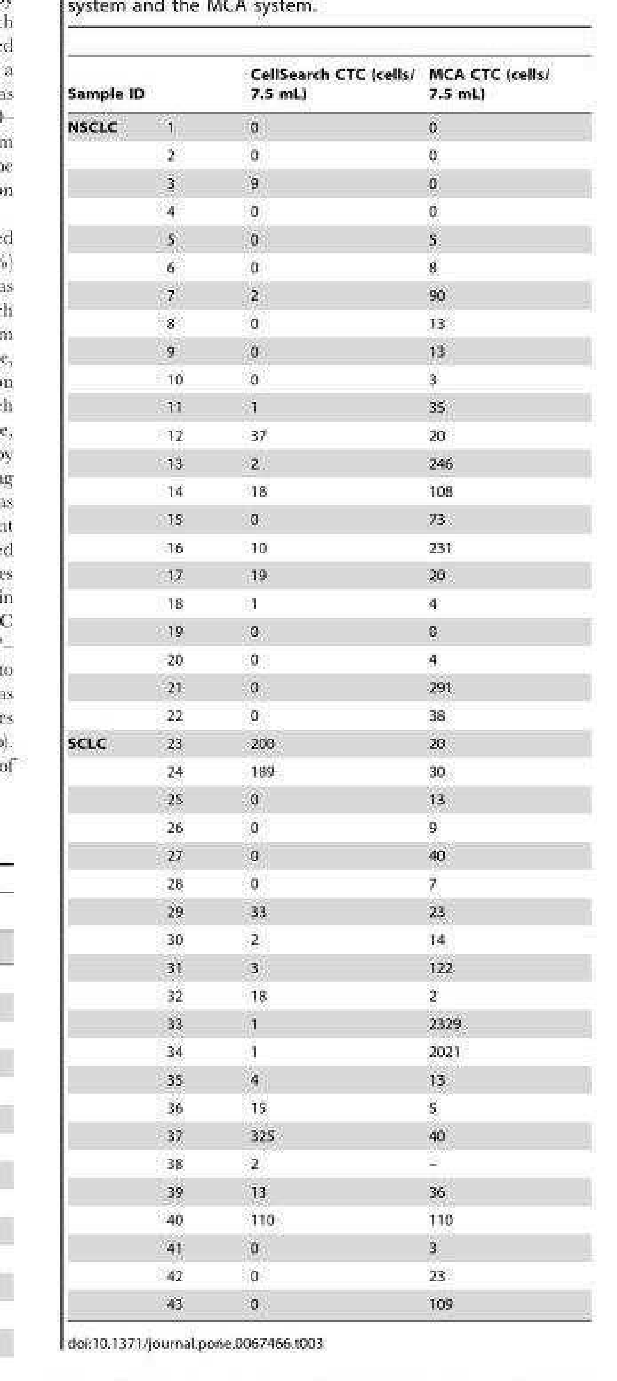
<table><thead><tr><td colspan="2">Sample ID</td><td rowspan="2">CellSearch CTC (cells/ 7.5 mL) 0</td><td rowspan="2">MCA CTC (cells/ 7.5 mL) 0</td></tr><tr><td>NSCLC</td><td>1</td></tr></thead><tbody><tr><td></td><td>2</td><td>0</td><td>0</td></tr><tr><td></td><td>3</td><td>9</td><td>0</td></tr><tr><td></td><td>4</td><td>0</td><td>0</td></tr><tr><td></td><td>5</td><td>0</td><td>5</td></tr><tr><td></td><td>6</td><td>0</td><td>8</td></tr><tr><td></td><td>7</td><td>2</td><td>90</td></tr><tr><td></td><td>8</td><td>0</td><td>13</td></tr><tr><td></td><td>9</td><td>0</td><td>13</td></tr><tr><td></td><td>10</td><td>0</td><td>3</td></tr><tr><td></td><td>11</td><td>1</td><td>35</td></tr><tr><td></td><td>12</td><td>37</td><td>20</td></tr><tr><td></td><td>13</td><td>2</td><td>246</td></tr><tr><td></td><td>14</td><td>18</td><td>108</td></tr><tr><td></td><td>15</td><td>0</td><td>73</td></tr><tr><td></td><td>16</td><td>10</td><td>231</td></tr><tr><td></td><td>17</td><td>19</td><td>20</td></tr><tr><td></td><td>18</td><td>1</td><td>4</td></tr><tr><td></td><td>19</td><td>0</td><td>0</td></tr><tr><td></td><td>20</td><td>0</td><td>4</td></tr><tr><td></td><td>21</td><td>0</td><td>291</td></tr><tr><td></td><td>22</td><td>0</td><td>38</td></tr><tr><td rowspan="21">SCLC</td><td>23</td><td>200</td><td>20</td></tr><tr><td>24</td><td>189</td><td>30</td></tr><tr><td>25</td><td>0</td><td>13</td></tr><tr><td>26</td><td>0</td><td>9</td></tr><tr><td>27</td><td>0</td><td>40</td></tr><tr><td>28</td><td>0</td><td>7</td></tr><tr><td>29</td><td>33</td><td>23</td></tr><tr><td>30</td><td>2</td><td>14</td></tr><tr><td>31</td><td>3</td><td>122</td></tr><tr><td>32</td><td>18</td><td>2</td></tr><tr><td>33</td><td>1</td><td>2329</td></tr><tr><td>34</td><td>1</td><td>2021</td></tr><tr><td>35</td><td>4</td><td>13</td></tr><tr><td>36</td><td>15</td><td>5</td></tr><tr><td>37</td><td>325</td><td>40</td></tr><tr><td>38</td><td>2</td><td>–</td></tr><tr><td>39</td><td>13</td><td>36</td></tr><tr><td>40</td><td>110</td><td>110</td></tr><tr><td>41</td><td>0</td><td>3</td></tr><tr><td>42</td><td>0</td><td>23</td></tr><tr><td>43</td><td>0</td><td>109</td></tr></tbody></table>